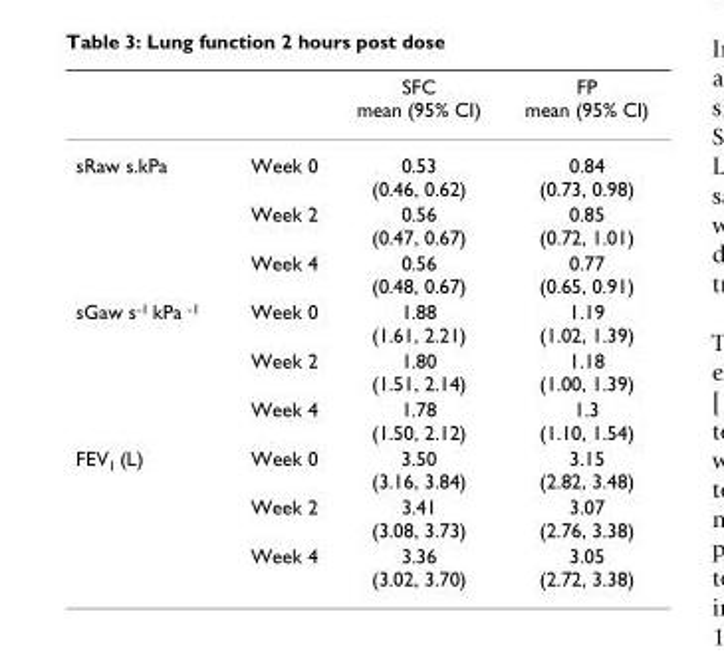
<table><thead><tr><td></td><td></td><td>SFC mean (95% CI)</td><td>FP mean (95% CI)</td></tr></thead><tbody><tr><td rowspan="3">sRaw s.kPa</td><td>Week 0</td><td>0.53 (0.46, 0.62)</td><td>0.84 (0.73, 0.98)</td></tr><tr><td>Week 2</td><td>0.56 (0.47, 0.67)</td><td>0.85 (0.72, 1.01)</td></tr><tr><td>Week 4</td><td>0.56 (0.48, 0.67)</td><td>0.77 (0.65, 0.91)</td></tr><tr><td rowspan="3">sGaw s<sup>-1</sup> kPa <sup>-1</sup></td><td>Week 0</td><td>1.88 (1.61, 2.21)</td><td>1.19 (1.02, 1.39)</td></tr><tr><td>Week 2</td><td>1.80 (1.51, 2.14)</td><td>1.18 (1.00, 1.39)</td></tr><tr><td>Week 4</td><td>1.78 (1.50, 2.12)</td><td>1.3 (1.10, 1.54)</td></tr><tr><td rowspan="3">FEV<sub>1</sub> (L)</td><td>Week 0</td><td>3.50 (3.16, 3.84)</td><td>3.15 (2.82, 3.48)</td></tr><tr><td>Week 2</td><td>3.41 (3.08, 3.73)</td><td>3.07 (2.76, 3.38)</td></tr><tr><td>Week 4</td><td>3.36 (3.02, 3.70)</td><td>3.05 (2.72, 3.38)</td></tr></tbody></table>